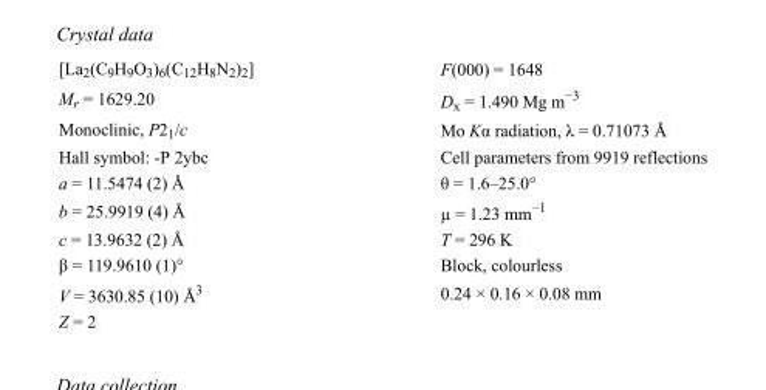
<table><tbody><tr><td>[La<sub>2</sub>(C<sub>9</sub>H<sub>9</sub>O<sub>3</sub>)<sub>6</sub>(C<sub>12</sub>H<sub>8</sub>N<sub>2</sub>)<sub>2</sub>]</td><td>F(000) = 1648</td></tr><tr><td>M<sub>r</sub> = 1629.20</td><td>D<sub>x</sub> = 1.490 Mg m<sup>−3</sup></td></tr><tr><td>Monoclinic, P2<sub>1</sub>/c</td><td>Mo Kα radiation, λ = 0.71073 Å</td></tr><tr><td>Hall symbol: -P 2ybc</td><td>Cell parameters from 9919 reflections</td></tr><tr><td>a = 11.5474 (2) Å</td><td>θ = 1.6–25.0°</td></tr><tr><td>b = 25.9919 (4) Å</td><td>µ = 1.23 mm<sup>−1</sup></td></tr><tr><td>c = 13.9632 (2) Å</td><td>T = 296 K</td></tr><tr><td>β = 119.9610 (1)°</td><td>Block, colourless</td></tr><tr><td>V = 3630.85 (10) Å<sup>3</sup></td><td>0.24 × 0.16 × 0.08 mm</td></tr><tr><td>Z = 2</td><td></td></tr></tbody></table>